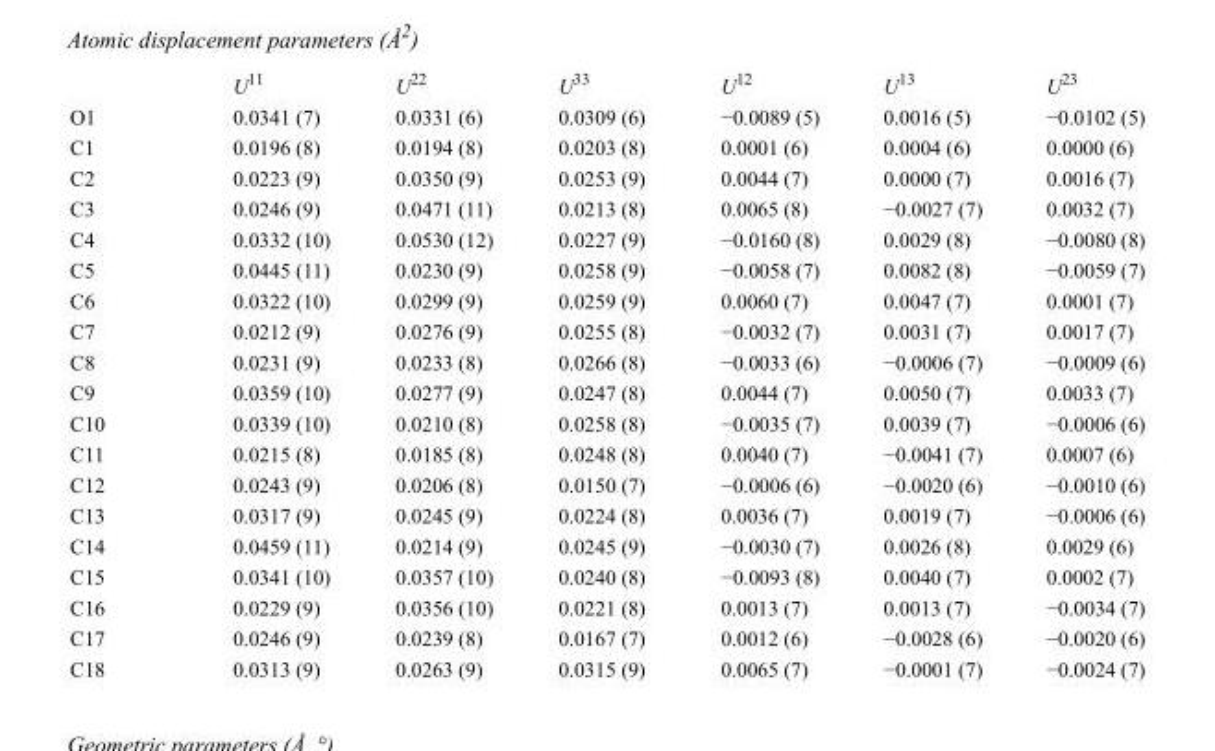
<table><thead><tr><td></td><td>U<sup>11</sup></td><td>U<sup>22</sup></td><td>U<sup>33</sup></td><td>U<sup>12</sup></td><td>U<sup>13</sup></td><td>U<sup>23</sup></td></tr></thead><tbody><tr><td>O1</td><td>0.0341 (7)</td><td>0.0331 (6)</td><td>0.0309 (6)</td><td>−0.0089 (5)</td><td>0.0016 (5)</td><td>−0.0102 (5)</td></tr><tr><td>C1</td><td>0.0196 (8)</td><td>0.0194 (8)</td><td>0.0203 (8)</td><td>0.0001 (6)</td><td>0.0004 (6)</td><td>0.0000 (6)</td></tr><tr><td>C2</td><td>0.0223 (9)</td><td>0.0350 (9)</td><td>0.0253 (9)</td><td>0.0044 (7)</td><td>0.0000 (7)</td><td>0.0016 (7)</td></tr><tr><td>C3</td><td>0.0246 (9)</td><td>0.0471 (11)</td><td>0.0213 (8)</td><td>0.0065 (8)</td><td>−0.0027 (7)</td><td>0.0032 (7)</td></tr><tr><td>C4</td><td>0.0332 (10)</td><td>0.0530 (12)</td><td>0.0227 (9)</td><td>−0.0160 (8)</td><td>0.0029 (8)</td><td>−0.0080 (8)</td></tr><tr><td>C5</td><td>0.0445 (11)</td><td>0.0230 (9)</td><td>0.0258 (9)</td><td>−0.0058 (7)</td><td>0.0082 (8)</td><td>−0.0059 (7)</td></tr><tr><td>C6</td><td>0.0322 (10)</td><td>0.0299 (9)</td><td>0.0259 (9)</td><td>0.0060 (7)</td><td>0.0047 (7)</td><td>0.0001 (7)</td></tr><tr><td>C7</td><td>0.0212 (9)</td><td>0.0276 (9)</td><td>0.0255 (8)</td><td>−0.0032 (7)</td><td>0.0031 (7)</td><td>0.0017 (7)</td></tr><tr><td>C8</td><td>0.0231 (9)</td><td>0.0233 (8)</td><td>0.0266 (8)</td><td>−0.0033 (6)</td><td>−0.0006 (7)</td><td>−0.0009 (6)</td></tr><tr><td>C9</td><td>0.0359 (10)</td><td>0.0277 (9)</td><td>0.0247 (8)</td><td>0.0044 (7)</td><td>0.0050 (7)</td><td>0.0033 (7)</td></tr><tr><td>C10</td><td>0.0339 (10)</td><td>0.0210 (8)</td><td>0.0258 (8)</td><td>−0.0035 (7)</td><td>0.0039 (7)</td><td>−0.0006 (6)</td></tr><tr><td>C11</td><td>0.0215 (8)</td><td>0.0185 (8)</td><td>0.0248 (8)</td><td>0.0040 (7)</td><td>−0.0041 (7)</td><td>0.0007 (6)</td></tr><tr><td>C12</td><td>0.0243 (9)</td><td>0.0206 (8)</td><td>0.0150 (7)</td><td>−0.0006 (6)</td><td>−0.0020 (6)</td><td>−0.0010 (6)</td></tr><tr><td>C13</td><td>0.0317 (9)</td><td>0.0245 (9)</td><td>0.0224 (8)</td><td>0.0036 (7)</td><td>0.0019 (7)</td><td>−0.0006 (6)</td></tr><tr><td>C14</td><td>0.0459 (11)</td><td>0.0214 (9)</td><td>0.0245 (9)</td><td>−0.0030 (7)</td><td>0.0026 (8)</td><td>0.0029 (6)</td></tr><tr><td>C15</td><td>0.0341 (10)</td><td>0.0357 (10)</td><td>0.0240 (8)</td><td>−0.0093 (8)</td><td>0.0040 (7)</td><td>0.0002 (7)</td></tr><tr><td>C16</td><td>0.0229 (9)</td><td>0.0356 (10)</td><td>0.0221 (8)</td><td>0.0013 (7)</td><td>0.0013 (7)</td><td>−0.0034 (7)</td></tr><tr><td>C17</td><td>0.0246 (9)</td><td>0.0239 (8)</td><td>0.0167 (7)</td><td>0.0012 (6)</td><td>−0.0028 (6)</td><td>−0.0020 (6)</td></tr><tr><td>C18</td><td>0.0313 (9)</td><td>0.0263 (9)</td><td>0.0315 (9)</td><td>0.0065 (7)</td><td>−0.0001 (7)</td><td>−0.0024 (7)</td></tr></tbody></table>